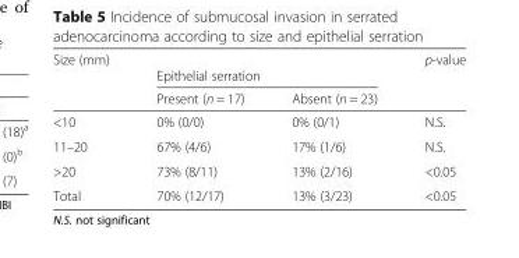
<table><thead><tr><td rowspan="2">Size (mm)</td><td colspan="2">Epithelial serration</td><td rowspan="2">p-value</td></tr><tr><td>Present (n = 17)</td><td>Absent (n = 23)</td></tr></thead><tbody><tr><td>&lt;10</td><td>0% (0/0)</td><td>0% (0/1)</td><td>N.S.</td></tr><tr><td>11–20</td><td>67% (4/6)</td><td>17% (1/6)</td><td>N.S.</td></tr><tr><td>&gt;20</td><td>73% (8/11)</td><td>13% (2/16)</td><td>&lt;0.05</td></tr><tr><td>Total</td><td>70% (12/17)</td><td>13% (3/23)</td><td>&lt;0.05</td></tr></tbody></table>